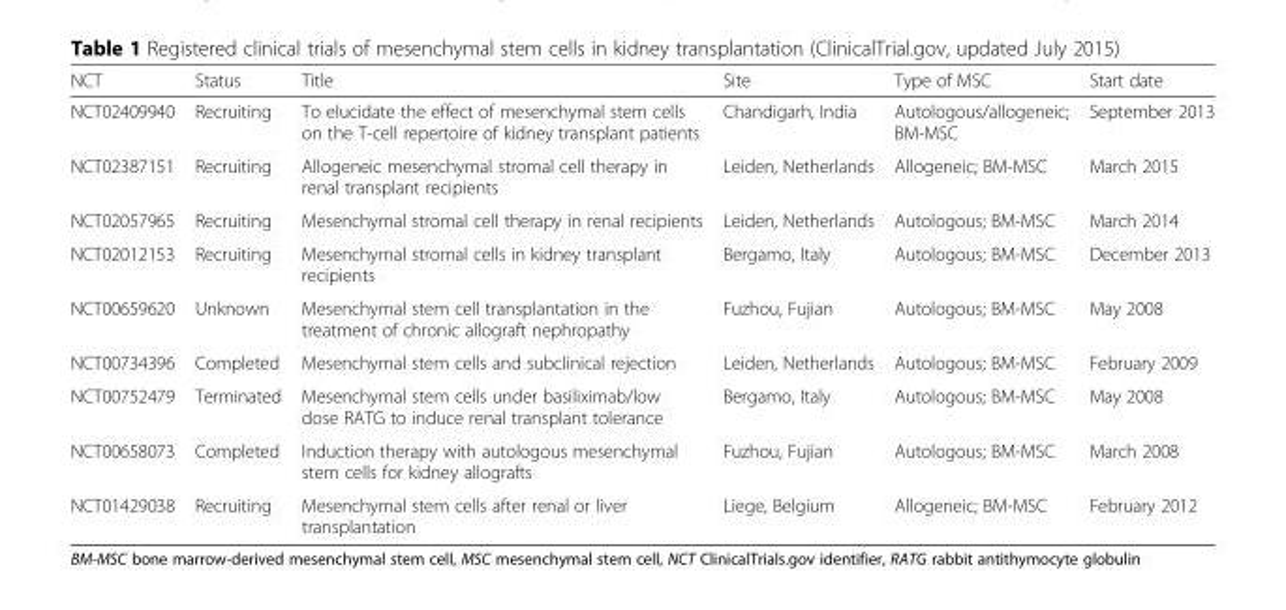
<table><thead><tr><td>NCT</td><td>Status</td><td>Title</td><td>Site</td><td>Type of MSC</td><td>Start date</td></tr></thead><tbody><tr><td>NCT02409940</td><td>Recruiting</td><td>To elucidate the effect of mesenchymal stem cells on the T-cell repertoire of kidney transplant patients</td><td>Chandigarh, India</td><td>Autologous/allogeneic; BM-MSC</td><td>September 2013</td></tr><tr><td>NCT02387151</td><td>Recruiting</td><td>Allogeneic mesenchymal stromal cell therapy in renal transplant recipients</td><td>Leiden, Netherlands</td><td>Allogeneic; BM-MSC</td><td>March 2015</td></tr><tr><td>NCT02057965</td><td>Recruiting</td><td>Mesenchymal stromal cell therapy in renal recipients</td><td>Leiden, Netherlands</td><td>Autologous; BM-MSC</td><td>March 2014</td></tr><tr><td>NCT02012153</td><td>Recruiting</td><td>Mesenchymal stromal cells in kidney transplant recipients</td><td>Bergamo, Italy</td><td>Autologous; BM-MSC</td><td>December 2013</td></tr><tr><td>NCT00659620</td><td>Unknown</td><td>Mesenchymal stem cell transplantation in the treatment of chronic allograft nephropathy</td><td>Fuzhou, Fujian</td><td>Autologous; BM-MSC</td><td>May 2008</td></tr><tr><td>NCT00734396</td><td>Completed</td><td>Mesenchymal stem cells and subclinical rejection</td><td>Leiden, Netherlands</td><td>Autologous; BM-MSC</td><td>February 2009</td></tr><tr><td>NCT00752479</td><td>Terminated</td><td>Mesenchymal stem cells under basiliximab/low dose RATG to induce renal transplant tolerance</td><td>Bergamo, Italy</td><td>Autologous; BM-MSC</td><td>May 2008</td></tr><tr><td>NCT00658073</td><td>Completed</td><td>Induction therapy with autologous mesenchymal stem cells for kidney allografts</td><td>Fuzhou, Fujian</td><td>Autologous; BM-MSC</td><td>March 2008</td></tr><tr><td>NCT01429038</td><td>Recruiting</td><td>Mesenchymal stem cells after renal or liver transplantation</td><td>Liege, Belgium</td><td>Allogeneic; BM-MSC</td><td>February 2012</td></tr></tbody></table>